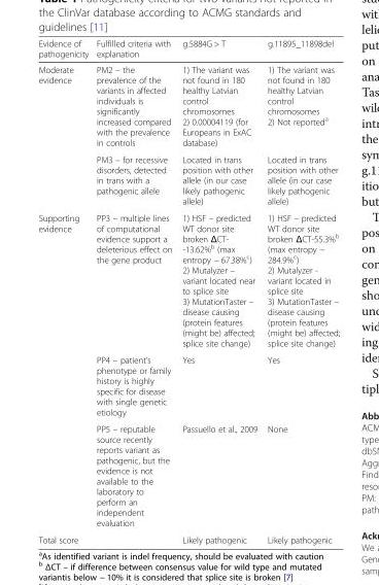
<table><thead><tr><td>Evidence of pathogenicity</td><td>Fulfilled criteria with explanation</td><td>g.5884G &gt; T</td><td>g.11895_11898del</td></tr></thead><tbody><tr><td rowspan="2">Moderate evidence</td><td>PM2 – the prevalence of the variants in affected individuals is significantly increased compared with the prevalence in controls</td><td>1) The variant was not found in 180 healthy Latvian control chromosomes 2) 0.00004119 (for Europeans in ExAC database)</td><td>1) The variant was not found in 180 healthy Latvian control chromosomes 2) Not reported<sup>a</sup></td></tr><tr><td>PM3 – for recessive disorders, detected in trans with a pathogenic allele</td><td>Located in trans position with other allele (in our case likely pathogenic allele)</td><td>Located in trans position with other allele (in our case likely pathogenic allele)</td></tr><tr><td rowspan="3">Supporting evidence</td><td>PP3 – multiple lines of computational evidence support a deleterious effect on the gene product</td><td>1) HSF – predicted WT donor site broken ΔCT- -13.62%<sup>b</sup> (max entropy − 67.38%<sup>c</sup>) 2) Mutalyzer – variant located near to splice site 3) MutationTaster – disease causing (protein features (might be) affected; splice site change)</td><td>1) HSF – predicted WT donor site broken ΔCT-55.3%<sup>b</sup> (max entropy − 284.9%<sup>c</sup>) 2) Mutalyzer - variant located in splice site 3) MutationTaster – disease causing (protein features (might be) affected; splice site change)</td></tr><tr><td>PP4 – patient’s phenotype or family history is highly specific for disease with single genetic etiology</td><td>Yes</td><td>Yes</td></tr><tr><td>PP5 – reputable source recently reports variant as pathogenic, but the evidence is not available to the laboratory to perform an independent evaluation</td><td>Passuello et al., 2009</td><td>None</td></tr><tr><td>Total score</td><td></td><td>Likely pathogenic</td><td>Likely pathogenic</td></tr></tbody></table>